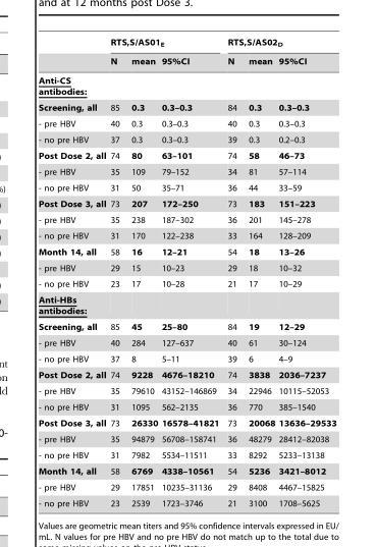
<table><thead><tr><td rowspan="2"></td><td colspan="3">RTS,S/AS01<sub>E</sub></td><td colspan="3">RTS,S/AS02<sub>D</sub></td></tr><tr><td>N</td><td>mean</td><td>95%CI</td><td>N</td><td>mean</td><td>95%CI</td></tr></thead><tbody><tr><td colspan="7">Anti-CS antibodies:</td></tr><tr><td>Screening, all</td><td>85</td><td>0.3</td><td>0.3–0.3</td><td>84</td><td>0.3</td><td>0.3–0.3</td></tr><tr><td>- pre HBV</td><td>40</td><td>0.3</td><td>0.3–0.3</td><td>40</td><td>0.3</td><td>0.3–0.3</td></tr><tr><td>- no pre HBV</td><td>37</td><td>0.3</td><td>0.3–0.3</td><td>39</td><td>0.3</td><td>0.2–0.3</td></tr><tr><td>Post Dose 2, all</td><td>74</td><td>80</td><td>63–101</td><td>74</td><td>58</td><td>46–73</td></tr><tr><td>- pre HBV</td><td>35</td><td>109</td><td>79–152</td><td>34</td><td>81</td><td>57–114</td></tr><tr><td>- no pre HBV</td><td>31</td><td>50</td><td>35–71</td><td>36</td><td>44</td><td>33–59</td></tr><tr><td>Post Dose 3, all</td><td>73</td><td>207</td><td>172–250</td><td>73</td><td>183</td><td>151–223</td></tr><tr><td>- pre HBV</td><td>35</td><td>238</td><td>187–302</td><td>36</td><td>201</td><td>145–278</td></tr><tr><td>- no pre HBV</td><td>31</td><td>170</td><td>122–238</td><td>33</td><td>164</td><td>128–209</td></tr><tr><td>Month 14, all</td><td>58</td><td>16</td><td>12–21</td><td>54</td><td>18</td><td>13–26</td></tr><tr><td>- pre HBV</td><td>29</td><td>15</td><td>10–23</td><td>29</td><td>18</td><td>10–32</td></tr><tr><td>- no pre HBV</td><td>23</td><td>17</td><td>10–28</td><td>21</td><td>17</td><td>10–29</td></tr><tr><td colspan="7">Anti-HBs antibodies:</td></tr><tr><td>Screening, all</td><td>85</td><td>45</td><td>25–80</td><td>84</td><td>19</td><td>12–29</td></tr><tr><td>- pre HBV</td><td>40</td><td>284</td><td>127–637</td><td>40</td><td>61</td><td>30–124</td></tr><tr><td>- no pre HBV</td><td>37</td><td>8</td><td>5–11</td><td>39</td><td>6</td><td>4–9</td></tr><tr><td>Post Dose 2, all</td><td>74</td><td>9228</td><td>4676–18210</td><td>74</td><td>3838</td><td>2036–7237</td></tr><tr><td>- pre HBV</td><td>35</td><td>79610</td><td>43152–146869</td><td>34</td><td>22946</td><td>10115–52053</td></tr><tr><td>- no pre HBV</td><td>31</td><td>1095</td><td>562–2135</td><td>36</td><td>770</td><td>385–1540</td></tr><tr><td>Post Dose 3, all</td><td>73</td><td>26330</td><td>16578–41821</td><td>73</td><td>20068</td><td>13636–29533</td></tr><tr><td>- pre HBV</td><td>35</td><td>94879</td><td>56708–158741</td><td>36</td><td>48279</td><td>28412–82038</td></tr><tr><td>- no pre HBV</td><td>31</td><td>7982</td><td>5534–11511</td><td>33</td><td>8292</td><td>5233–13138</td></tr><tr><td>Month 14, all</td><td>58</td><td>6769</td><td>4338–10561</td><td>54</td><td>5236</td><td>3421–8012</td></tr><tr><td>- pre HBV</td><td>29</td><td>17851</td><td>10235–31136</td><td>29</td><td>8408</td><td>4467–15825</td></tr><tr><td>- no pre HBV</td><td>23</td><td>2539</td><td>1723–3746</td><td>21</td><td>3100</td><td>1708–5625</td></tr></tbody></table>